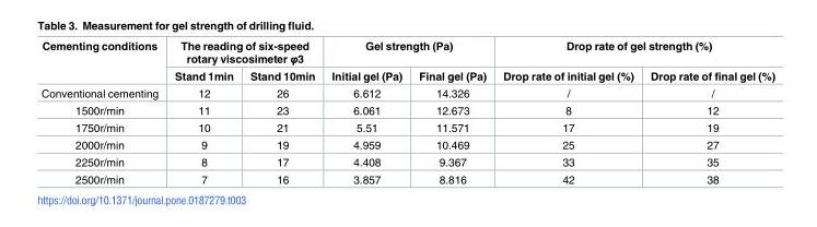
<table><thead><tr><td rowspan="2">Cementing conditions</td><td colspan="2">The reading of six-speed rotary viscosimeter φ3</td><td colspan="2">Gel strength (Pa)</td><td colspan="2">Drop rate of gel strength (%)</td></tr><tr><td>Stand 1min</td><td>Stand 10min</td><td>Initial gel (Pa)</td><td>Final gel (Pa)</td><td>Drop rate of initial gel (%)</td><td>Drop rate of final gel (%)</td></tr></thead><tbody><tr><td>Conventional cementing</td><td>12</td><td>26</td><td>6.612</td><td>14.326</td><td>/</td><td>/</td></tr><tr><td>1500r/min</td><td>11</td><td>23</td><td>6.061</td><td>12.673</td><td>8</td><td>12</td></tr><tr><td>1750r/min</td><td>10</td><td>21</td><td>5.51</td><td>11.571</td><td>17</td><td>19</td></tr><tr><td>2000r/min</td><td>9</td><td>19</td><td>4.959</td><td>10.469</td><td>25</td><td>27</td></tr><tr><td>2250r/min</td><td>8</td><td>17</td><td>4.408</td><td>9.367</td><td>33</td><td>35</td></tr><tr><td>2500r/min</td><td>7</td><td>16</td><td>3.857</td><td>8.816</td><td>42</td><td>38</td></tr></tbody></table>